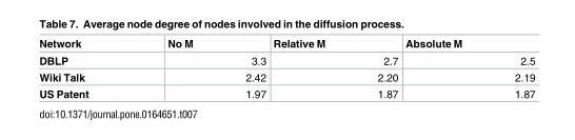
<table><thead><tr><td>Network</td><td>No M</td><td>Relative M</td><td>Absolute M</td></tr></thead><tbody><tr><td>DBLP</td><td>3.3</td><td>2.7</td><td>2.5</td></tr><tr><td>Wiki Talk</td><td>2.42</td><td>2.20</td><td>2.19</td></tr><tr><td>US Patent</td><td>1.97</td><td>1.87</td><td>1.87</td></tr></tbody></table>